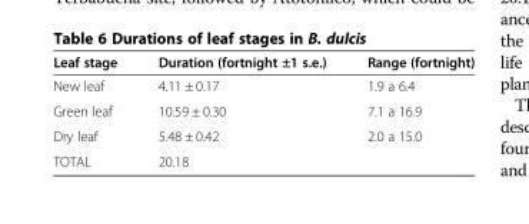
<table><thead><tr><td>Leaf stage</td><td>Duration (fortnight ±1 s.e.)</td><td>Range (fortnight)</td></tr></thead><tbody><tr><td>New leaf</td><td>4.11 ± 0.17</td><td>1.9 a 6.4</td></tr><tr><td>Green leaf</td><td>10.59 ± 0.30</td><td>7.1 a 16.9</td></tr><tr><td>Dry leaf</td><td>5.48 ± 0.42</td><td>2.0 a 15.0</td></tr><tr><td>TOTAL</td><td>20.18</td><td></td></tr></tbody></table>